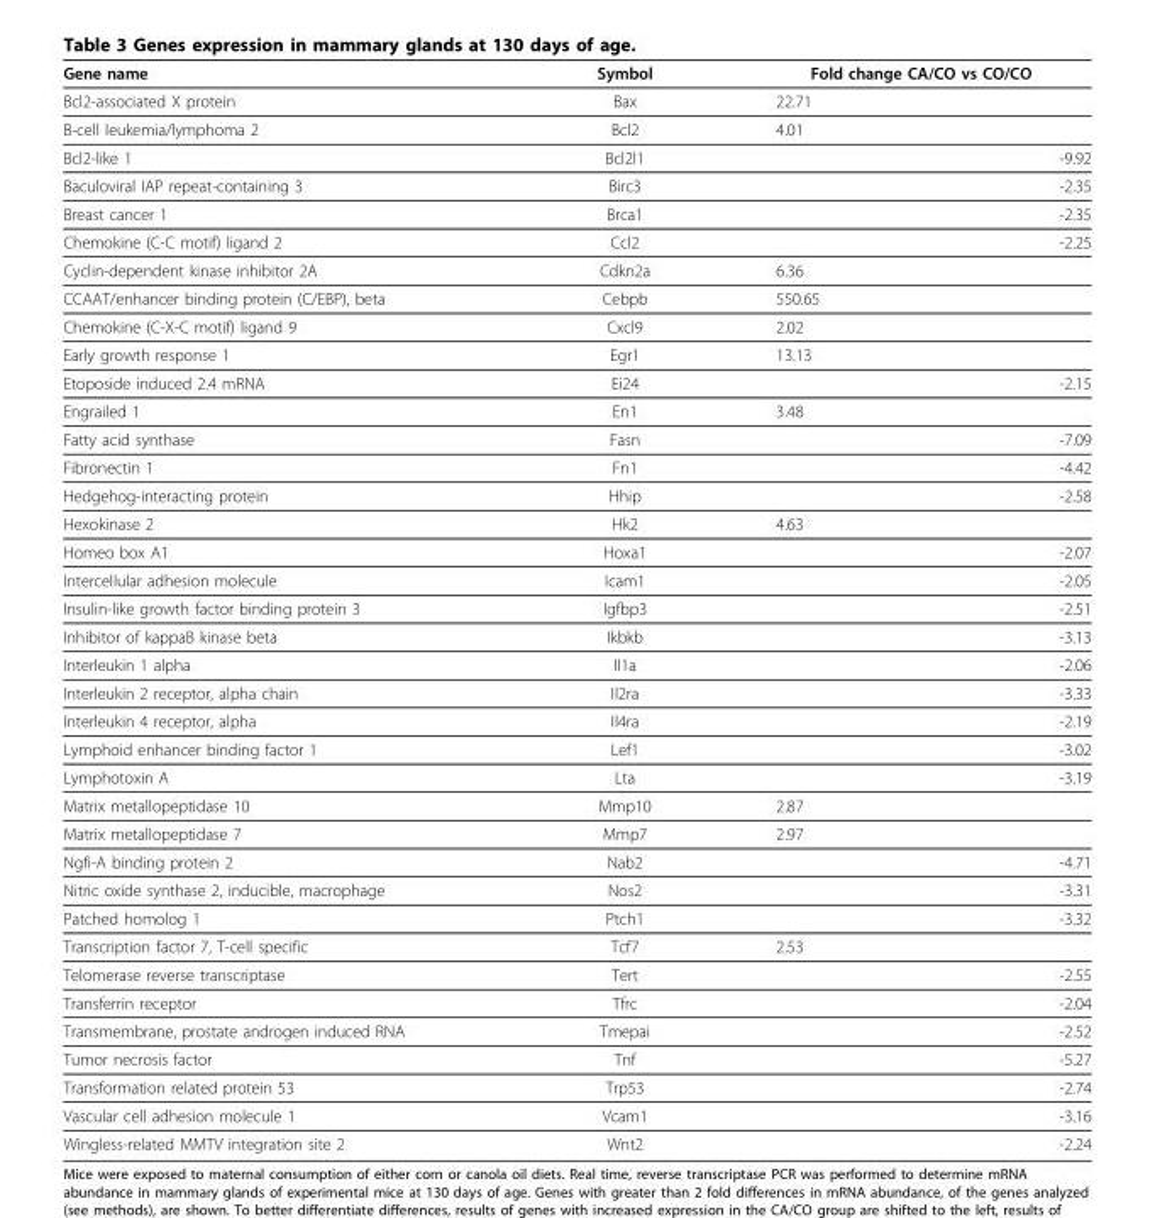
<table><thead><tr><td>Gene name</td><td>Symbol</td><td>Fold change CA/CO vs CO/CO</td></tr></thead><tbody><tr><td>Bcl2-associated X protein</td><td>Bax</td><td>22.71</td></tr><tr><td>B-cell leukemia/lymphoma 2</td><td>Bcl2</td><td>4.01</td></tr><tr><td>Bcl2-like 1</td><td>Bcl2l1</td><td>-9.92</td></tr><tr><td>Baculoviral IAP repeat-containing 3</td><td>Birc3</td><td>-2.35</td></tr><tr><td>Breast cancer 1</td><td>Brca1</td><td>-2.35</td></tr><tr><td>Chemokine (C-C motif) ligand 2</td><td>Ccl2</td><td>-2.25</td></tr><tr><td>Cyclin-dependent kinase inhibitor 2A</td><td>Cdkn2a</td><td>6.36</td></tr><tr><td>CCAAT/enhancer binding protein (C/EBP), beta</td><td>Cebpb</td><td>550.65</td></tr><tr><td>Chemokine (C-X-C motif) ligand 9</td><td>Cxcl9</td><td>2.02</td></tr><tr><td>Early growth response 1</td><td>Egr1</td><td>13.13</td></tr><tr><td>Etoposide induced 2.4 mRNA</td><td>Ei24</td><td>-2.15</td></tr><tr><td>Engrailed 1</td><td>En1</td><td>3.48</td></tr><tr><td>Fatty acid synthase</td><td>Fasn</td><td>-7.09</td></tr><tr><td>Fibronectin 1</td><td>Fn1</td><td>-4.42</td></tr><tr><td>Hedgehog-interacting protein</td><td>Hhip</td><td>-2.58</td></tr><tr><td>Hexokinase 2</td><td>Hk2</td><td>4.63</td></tr><tr><td>Homeo box A1</td><td>Hoxa1</td><td>-2.07</td></tr><tr><td>Intercellular adhesion molecule</td><td>Icam1</td><td>-2.05</td></tr><tr><td>Insulin-like growth factor binding protein 3</td><td>Igfbp3</td><td>-2.51</td></tr><tr><td>Inhibitor of kappaB kinase beta</td><td>Ikbkb</td><td>-3.13</td></tr><tr><td>Interleukin 1 alpha</td><td>Il1a</td><td>-2.06</td></tr><tr><td>Interleukin 2 receptor, alpha chain</td><td>Il2ra</td><td>-3.33</td></tr><tr><td>Interleukin 4 receptor, alpha</td><td>Il4ra</td><td>-2.19</td></tr><tr><td>Lymphoid enhancer binding factor 1</td><td>Lef1</td><td>-3.02</td></tr><tr><td>Lymphotoxin A</td><td>Lta</td><td>-3.19</td></tr><tr><td>Matrix metallopeptidase 10</td><td>Mmp10</td><td>2.87</td></tr><tr><td>Matrix metallopeptidase 7</td><td>Mmp7</td><td>2.97</td></tr><tr><td>Ngfi-A binding protein 2</td><td>Nab2</td><td>-4.71</td></tr><tr><td>Nitric oxide synthase 2, inducible, macrophage</td><td>Nos2</td><td>-3.31</td></tr><tr><td>Patched homolog 1</td><td>Ptch1</td><td>-3.32</td></tr><tr><td>Transcription factor 7, T-cell specific</td><td>Tcf7</td><td>2.53</td></tr><tr><td>Telomerase reverse transcriptase</td><td>Tert</td><td>-2.55</td></tr><tr><td>Transferrin receptor</td><td>Tfrc</td><td>-2.04</td></tr><tr><td>Transmembrane, prostate androgen induced RNA</td><td>Tmepai</td><td>-2.52</td></tr><tr><td>Tumor necrosis factor</td><td>Tnf</td><td>-5.27</td></tr><tr><td>Transformation related protein 53</td><td>Trp53</td><td>-2.74</td></tr><tr><td>Vascular cell adhesion molecule 1</td><td>Vcam1</td><td>-3.16</td></tr><tr><td>Wingless-related MMTV integration site 2</td><td>Wnt2</td><td>-2.24</td></tr></tbody></table>